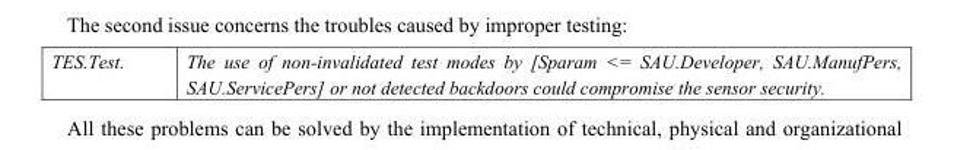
<table><tbody><tr><td>TES.Test.</td><td>The use of non-invalidated test modes by [Sparam &lt;= SAU.Developer, SAU.ManufPers, SAU.ServicePers] or not detected backdoors could compromise the sensor security.</td></tr></tbody></table>